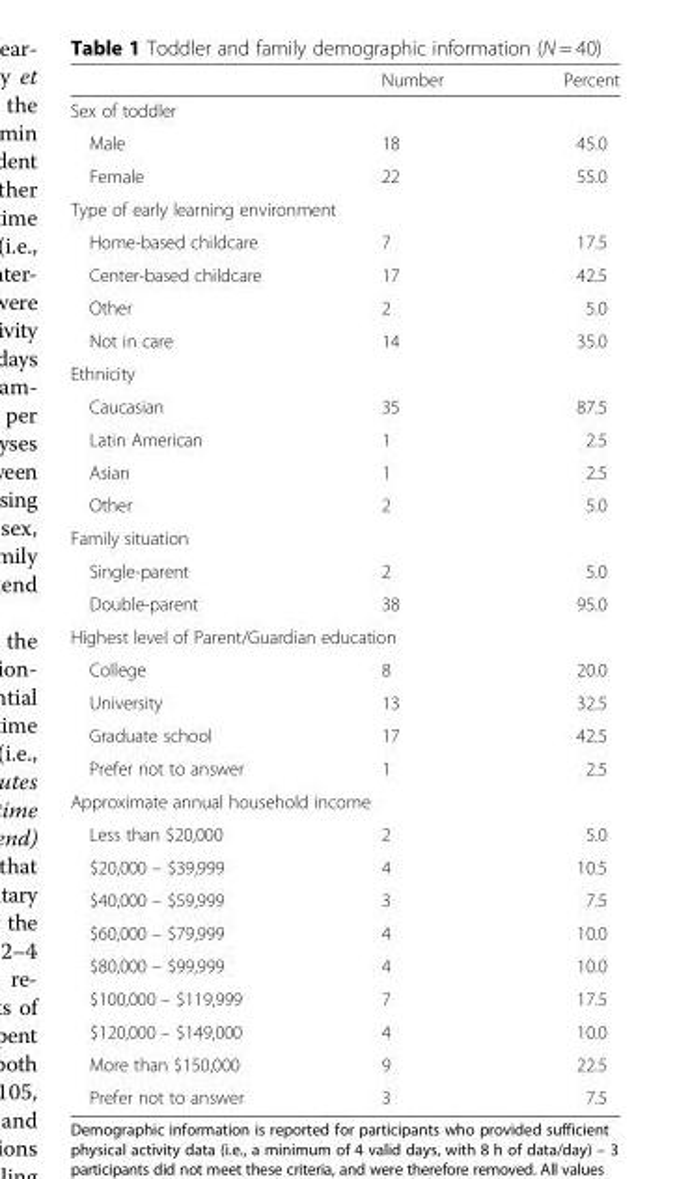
<table><thead><tr><td></td><td>Number</td><td>Percent</td></tr></thead><tbody><tr><td colspan="3">Sex of toddler</td></tr><tr><td>Male</td><td>18</td><td>45.0</td></tr><tr><td>Female</td><td>22</td><td>55.0</td></tr><tr><td colspan="3">Type of early learning environment</td></tr><tr><td>Home-based childcare</td><td>7</td><td>17.5</td></tr><tr><td>Center-based childcare</td><td>17</td><td>42.5</td></tr><tr><td>Other</td><td>2</td><td>5.0</td></tr><tr><td>Not in care</td><td>14</td><td>35.0</td></tr><tr><td colspan="3">Ethnicity</td></tr><tr><td>Caucasian</td><td>35</td><td>87.5</td></tr><tr><td>Latin American</td><td>1</td><td>2.5</td></tr><tr><td>Asian</td><td>1</td><td>2.5</td></tr><tr><td>Other</td><td>2</td><td>5.0</td></tr><tr><td colspan="3">Family situation</td></tr><tr><td>Single-parent</td><td>2</td><td>5.0</td></tr><tr><td>Double-parent</td><td>38</td><td>95.0</td></tr><tr><td colspan="3">Highest level of Parent/Guardian education</td></tr><tr><td>College</td><td>8</td><td>20.0</td></tr><tr><td>University</td><td>13</td><td>32.5</td></tr><tr><td>Graduate school</td><td>17</td><td>42.5</td></tr><tr><td>Prefer not to answer</td><td>1</td><td>2.5</td></tr><tr><td colspan="3">Approximate annual household income</td></tr><tr><td>Less than $20,000</td><td>2</td><td>5.0</td></tr><tr><td>$20,000 – $39,999</td><td>4</td><td>10.5</td></tr><tr><td>$40,000 – $59,999</td><td>3</td><td>7.5</td></tr><tr><td>$60,000 – $79,999</td><td>4</td><td>10.0</td></tr><tr><td>$80,000 – $99,999</td><td>4</td><td>10.0</td></tr><tr><td>$100,000 – $119,999</td><td>7</td><td>17.5</td></tr><tr><td>$120,000 – $149,000</td><td>4</td><td>10.0</td></tr><tr><td>More than $150,000</td><td>9</td><td>22.5</td></tr><tr><td>Prefer not to answer</td><td>3</td><td>7.5</td></tr></tbody></table>